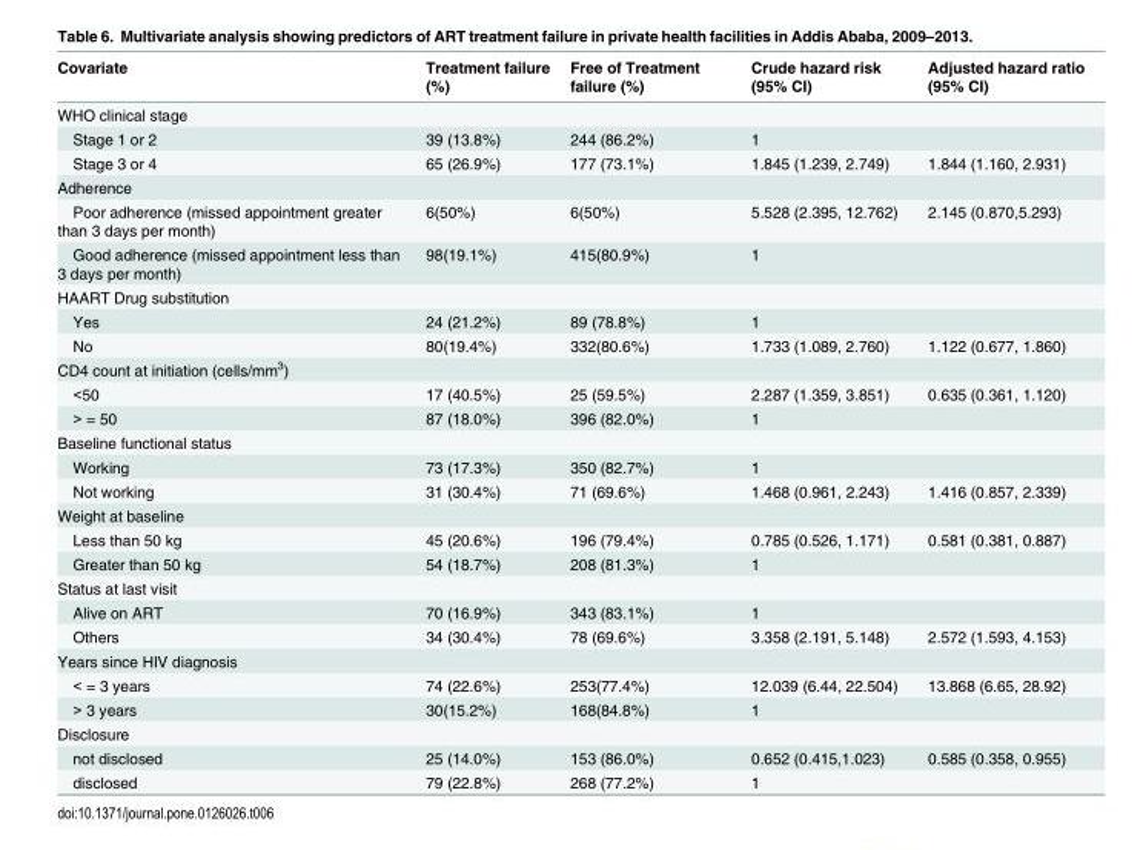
<table><thead><tr><td>Covariate</td><td>Treatment failure (%)</td><td>Free of Treatment failure (%)</td><td>Crude hazard risk (95% CI)</td><td>Adjusted hazard ratio (95% CI)</td></tr></thead><tbody><tr><td colspan="5">WHO clinical stage</td></tr><tr><td>Stage 1 or 2</td><td>39 (13.8%)</td><td>244 (86.2%)</td><td>1</td><td></td></tr><tr><td>Stage 3 or 4</td><td>65 (26.9%)</td><td>177 (73.1%)</td><td>1.845 (1.239, 2.749)</td><td>1.844 (1.160, 2.931)</td></tr><tr><td colspan="5">Adherence</td></tr><tr><td>Poor adherence (missed appointment greater than 3 days per month)</td><td>6(50%)</td><td>6(50%)</td><td>5.528 (2.395, 12.762)</td><td>2.145 (0.870,5.293)</td></tr><tr><td>Good adherence (missed appointment less than 3 days per month)</td><td>98(19.1%)</td><td>415(80.9%)</td><td>1</td><td></td></tr><tr><td colspan="5">HAART Drug substitution</td></tr><tr><td>Yes</td><td>24 (21.2%)</td><td>89 (78.8%)</td><td>1</td><td></td></tr><tr><td>No</td><td>80(19.4%)</td><td>332(80.6%)</td><td>1.733 (1.089, 2.760)</td><td>1.122 (0.677, 1.860)</td></tr><tr><td colspan="5">CD4 count at initiation (cells/mm<sup>3</sup>)</td></tr><tr><td>&lt;50</td><td>17 (40.5%)</td><td>25 (59.5%)</td><td>2.287 (1.359, 3.851)</td><td>0.635 (0.361, 1.120)</td></tr><tr><td>&gt; = 50</td><td>87 (18.0%)</td><td>396 (82.0%)</td><td>1</td><td></td></tr><tr><td colspan="5">Baseline functional status</td></tr><tr><td>Working</td><td>73 (17.3%)</td><td>350 (82.7%)</td><td>1</td><td></td></tr><tr><td>Not working</td><td>31 (30.4%)</td><td>71 (69.6%)</td><td>1.468 (0.961, 2.243)</td><td>1.416 (0.857, 2.339)</td></tr><tr><td colspan="5">Weight at baseline</td></tr><tr><td>Less than 50 kg</td><td>45 (20.6%)</td><td>196 (79.4%)</td><td>0.785 (0.526, 1.171)</td><td>0.581 (0.381, 0.887)</td></tr><tr><td>Greater than 50 kg</td><td>54 (18.7%)</td><td>208 (81.3%)</td><td>1</td><td></td></tr><tr><td colspan="5">Status at last visit</td></tr><tr><td>Alive on ART</td><td>70 (16.9%)</td><td>343 (83.1%)</td><td>1</td><td></td></tr><tr><td>Others</td><td>34 (30.4%)</td><td>78 (69.6%)</td><td>3.358 (2.191, 5.148)</td><td>2.572 (1.593, 4.153)</td></tr><tr><td colspan="5">Years since HIV diagnosis</td></tr><tr><td>&lt; = 3 years</td><td>74 (22.6%)</td><td>253(77.4%)</td><td>12.039 (6.44, 22.504)</td><td>13.868 (6.65, 28.92)</td></tr><tr><td>&gt; 3 years</td><td>30(15.2%)</td><td>168(84.8%)</td><td>1</td><td></td></tr><tr><td colspan="5">Disclosure</td></tr><tr><td>not disclosed</td><td>25 (14.0%)</td><td>153 (86.0%)</td><td>0.652 (0.415,1.023)</td><td>0.585 (0.358, 0.955)</td></tr><tr><td>disclosed</td><td>79 (22.8%)</td><td>268 (77.2%)</td><td>1</td><td></td></tr></tbody></table>